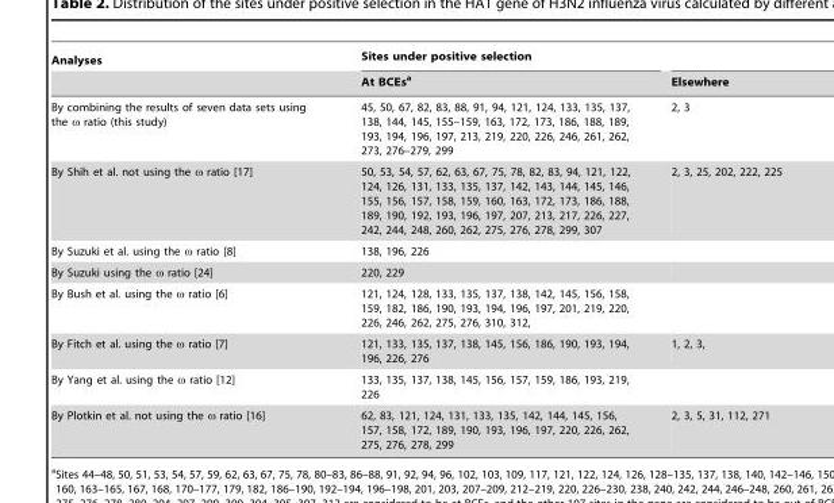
<table><thead><tr><td rowspan="2">Analyses</td><td rowspan="2">Sites under positive selection At BCEs<sup>a</sup></td><td rowspan="2">Elsewhere</td></tr><tr></tr></thead><tbody><tr><td>By combining the results of seven data sets using the ω ratio (this study)</td><td>45, 50, 67, 82, 83, 88, 91, 94, 121, 124, 133, 135, 137, 138, 144, 145, 155–159, 163, 172, 173, 186, 188, 189, 193, 194, 196, 197, 213, 219, 220, 226, 246, 261, 262, 273, 276–279, 299</td><td>2, 3</td></tr><tr><td>By Shih et al. not using the ω ratio [17]</td><td>50, 53, 54, 57, 62, 63, 67, 75, 78, 82, 83, 94, 121, 122, 124, 126, 131, 133, 135, 137, 142, 143, 144, 145, 146, 155, 156, 157, 158, 159, 160, 163, 172, 173, 186, 188, 189, 190, 192, 193, 196, 197, 207, 213, 217, 226, 227, 242, 244, 248, 260, 262, 275, 276, 278, 299, 307</td><td>2, 3, 25, 202, 222, 225</td></tr><tr><td>By Suzuki et al. using the ω ratio [8]</td><td>138, 196, 226</td><td></td></tr><tr><td>By Suzuki using the ω ratio [24]</td><td>220, 229</td><td></td></tr><tr><td>By Bush et al. using the ω ratio [6]</td><td>121, 124, 128, 133, 135, 137, 138, 142, 145, 156, 158, 159, 182, 186, 190, 193, 194, 196, 197, 201, 219, 220, 226, 246, 262, 275, 276, 310, 312,</td><td></td></tr><tr><td>By Fitch et al. using the ω ratio [7]</td><td>121, 133, 135, 137, 138, 145, 156, 186, 190, 193, 194, 196, 226, 276</td><td>1, 2, 3,</td></tr><tr><td>By Yang et al. using the ω ratio [12]</td><td>133, 135, 137, 138, 145, 156, 157, 159, 186, 193, 219, 226</td><td></td></tr><tr><td>By Plotkin et al. not using the ω ratio [16]</td><td>62, 83, 121, 124, 131, 133, 135, 142, 144, 145, 156, 157, 158, 172, 189, 190, 193, 196, 197, 220, 226, 262, 275, 276, 278, 299</td><td>2, 3, 5, 31, 112, 271</td></tr></tbody></table>